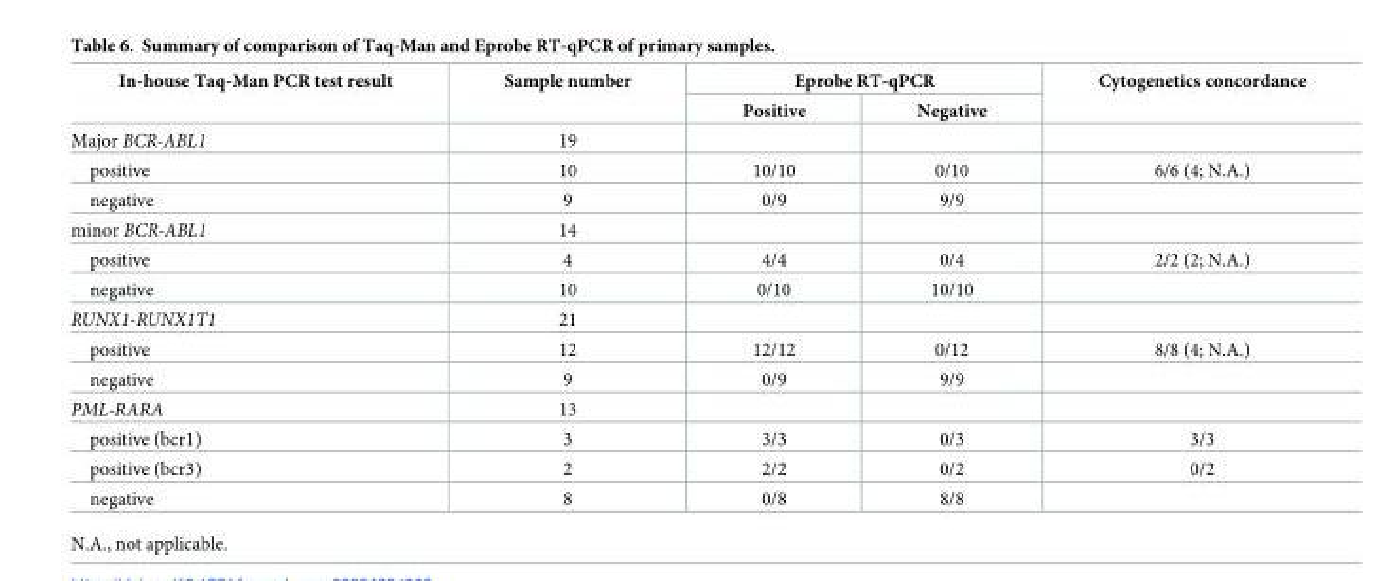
<table><thead><tr><td rowspan="2">In-house Taq-Man PCR test result</td><td rowspan="2">Sample number</td><td colspan="2">Eprobe RT-qPCR</td><td rowspan="2">Cytogenetics concordance</td></tr><tr><td>Positive</td><td>Negative</td></tr></thead><tbody><tr><td>Major BCR-ABL1</td><td>19</td><td></td><td></td><td></td></tr><tr><td>positive</td><td>10</td><td>10/10</td><td>0/10</td><td>6/6 (4; N.A.)</td></tr><tr><td>negative</td><td>9</td><td>0/9</td><td>9/9</td><td></td></tr><tr><td>minor BCR-ABL1</td><td>14</td><td></td><td></td><td></td></tr><tr><td>positive</td><td>4</td><td>4/4</td><td>0/4</td><td>2/2 (2; N.A.)</td></tr><tr><td>negative</td><td>10</td><td>0/10</td><td>10/10</td><td></td></tr><tr><td>RUNX1-RUNX1T1</td><td>21</td><td></td><td></td><td></td></tr><tr><td>positive</td><td>12</td><td>12/12</td><td>0/12</td><td>8/8 (4; N.A.)</td></tr><tr><td>negative</td><td>9</td><td>0/9</td><td>9/9</td><td></td></tr><tr><td>PML-RARA</td><td>13</td><td></td><td></td><td></td></tr><tr><td>positive (bcr1)</td><td>3</td><td>3/3</td><td>0/3</td><td>3/3</td></tr><tr><td>positive (bcr3)</td><td>2</td><td>2/2</td><td>0/2</td><td>0/2</td></tr><tr><td>negative</td><td>8</td><td>0/8</td><td>8/8</td><td></td></tr></tbody></table>